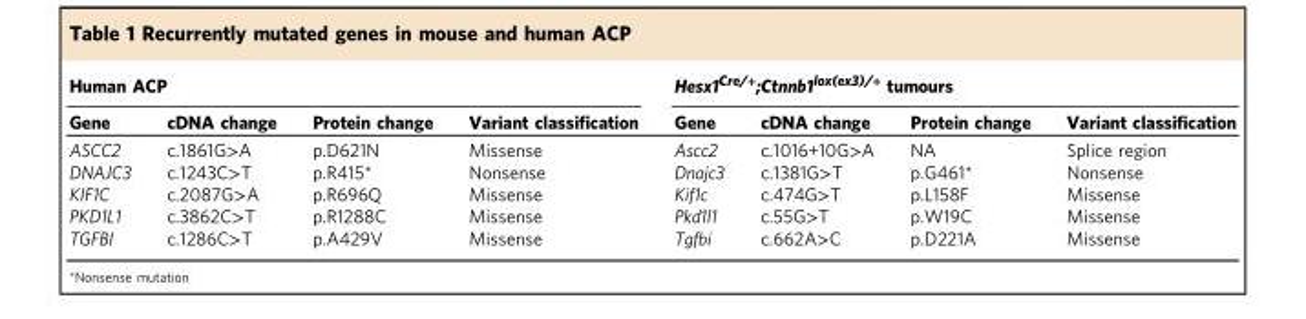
<table><thead><tr><td colspan="4">Human ACP</td><td colspan="4">Hesx1<sup>Cre/+</sup>;Ctnnb1<sup>lox(ex3)/+</sup> tumours</td></tr><tr><td>Gene</td><td>cDNA change</td><td>Protein change</td><td>Variant classification</td><td>Gene</td><td>cDNA change</td><td>Protein change</td><td>Variant classification</td></tr></thead><tbody><tr><td>ASCC2</td><td>c.1861G&gt;A</td><td>p.D621N</td><td>Missense</td><td>Ascc2</td><td>c.1016+10G&gt;A</td><td>NA</td><td>Splice region</td></tr><tr><td>DNAJC3</td><td>c.1243C&gt;T</td><td>p.R415*</td><td>Nonsense</td><td>Dnajc3</td><td>c.1381G&gt;T</td><td>p.G461*</td><td>Nonsense</td></tr><tr><td>KIF1C</td><td>c.2087G&gt;A</td><td>p.R696Q</td><td>Missense</td><td>Kif1c</td><td>c.474G&gt;T</td><td>p.L158F</td><td>Missense</td></tr><tr><td>PKD1L1</td><td>c.3862C&gt;T</td><td>p.R1288C</td><td>Missense</td><td>Pkd1l1</td><td>c.55G&gt;T</td><td>p.W19C</td><td>Missense</td></tr><tr><td>TGFBI</td><td>c.1286C&gt;T</td><td>p.A429V</td><td>Missense</td><td>Tgfbi</td><td>c.662A&gt;C</td><td>p.D221A</td><td>Missense</td></tr></tbody></table>